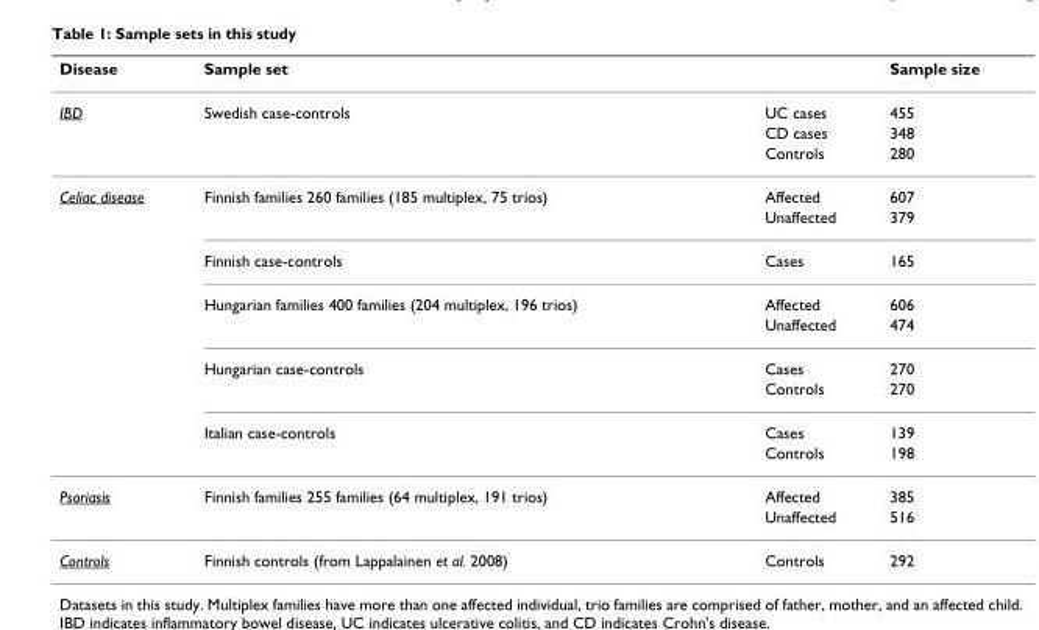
<table><thead><tr><td>Disease</td><td>Sample set</td><td></td><td>Sample size</td></tr></thead><tbody><tr><td rowspan="3">IBD</td><td>Swedish case-controls</td><td>UC cases</td><td>455</td></tr><tr><td></td><td>CD cases</td><td>348</td></tr><tr><td></td><td>Controls</td><td>280</td></tr><tr><td rowspan="9">Celiac disease</td><td>Finnish families 260 families (185 multiplex, 75 trios)</td><td>Affected</td><td>607</td></tr><tr><td></td><td>Unaffected</td><td>379</td></tr><tr><td>Finnish case-controls</td><td>Cases</td><td>165</td></tr><tr><td>Hungarian families 400 families (204 multiplex, 196 trios)</td><td>Affected</td><td>606</td></tr><tr><td></td><td>Unaffected</td><td>474</td></tr><tr><td>Hungarian case-controls</td><td>Cases</td><td>270</td></tr><tr><td></td><td>Controls</td><td>270</td></tr><tr><td>Italian case-controls</td><td>Cases</td><td>139</td></tr><tr><td></td><td>Controls</td><td>198</td></tr><tr><td rowspan="2">Psoriasis</td><td>Finnish families 255 families (64 multiplex, 191 trios)</td><td>Affected</td><td>385</td></tr><tr><td></td><td>Unaffected</td><td>516</td></tr><tr><td>Controls</td><td>Finnish controls (from Lappalainen et al. 2008)</td><td>Controls</td><td>292</td></tr></tbody></table>